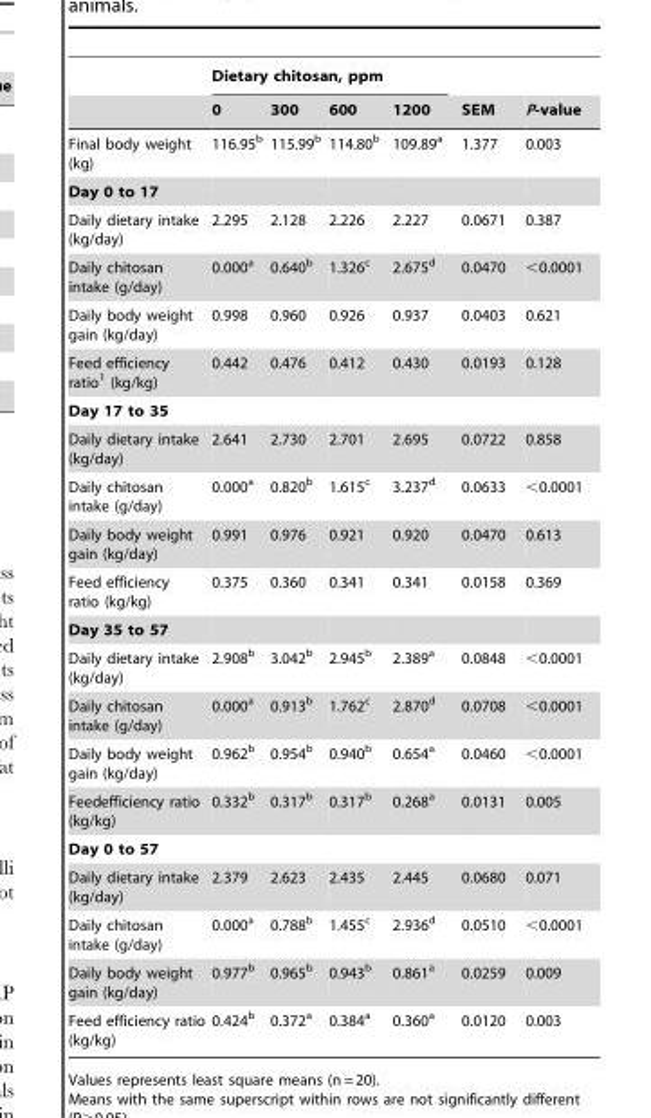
<table><thead><tr><td rowspan="2"></td><td colspan="4">Dietary chitosan, ppm</td><td rowspan="2">SEM</td><td rowspan="2">P-value</td></tr><tr><td>0</td><td>300</td><td>600</td><td>1200</td></tr></thead><tbody><tr><td>Final body weight (kg)</td><td>116.95<sup>b</sup></td><td>115.99<sup>b</sup></td><td>114.80<sup>b</sup></td><td>109.89<sup>a</sup></td><td>1.377</td><td>0.003</td></tr><tr><td colspan="7">Day 0 to 17</td></tr><tr><td>Daily dietary intake (kg/day)</td><td>2.295</td><td>2.128</td><td>2.226</td><td>2.227</td><td>0.0671</td><td>0.387</td></tr><tr><td>Daily chitosan intake (g/day)</td><td>0.000<sup>a</sup></td><td>0.640<sup>b</sup></td><td>1.326<sup>c</sup></td><td>2.675<sup>d</sup></td><td>0.0470</td><td>&lt;0.0001</td></tr><tr><td>Daily body weight gain (kg/day)</td><td>0.998</td><td>0.960</td><td>0.926</td><td>0.937</td><td>0.0403</td><td>0.621</td></tr><tr><td>Feed efficiency ratio<sup>1</sup> (kg/kg)</td><td>0.442</td><td>0.476</td><td>0.412</td><td>0.430</td><td>0.0193</td><td>0.128</td></tr><tr><td colspan="7">Day 17 to 35</td></tr><tr><td>Daily dietary intake (kg/day)</td><td>2.641</td><td>2.730</td><td>2.701</td><td>2.695</td><td>0.0722</td><td>0.858</td></tr><tr><td>Daily chitosan intake (g/day)</td><td>0.000<sup>a</sup></td><td>0.820<sup>b</sup></td><td>1.615<sup>c</sup></td><td>3.237<sup>d</sup></td><td>0.0633</td><td>&lt;0.0001</td></tr><tr><td>Daily body weight gain (kg/day)</td><td>0.991</td><td>0.976</td><td>0.921</td><td>0.920</td><td>0.0470</td><td>0.613</td></tr><tr><td>Feed efficiency ratio (kg/kg)</td><td>0.375</td><td>0.360</td><td>0.341</td><td>0.341</td><td>0.0158</td><td>0.369</td></tr><tr><td colspan="7">Day 35 to 57</td></tr><tr><td>Daily dietary intake (kg/day)</td><td>2.908<sup>b</sup></td><td>3.042<sup>b</sup></td><td>2.945<sup>b</sup></td><td>2.389<sup>a</sup></td><td>0.0848</td><td>&lt;0.0001</td></tr><tr><td>Daily chitosan intake (g/day)</td><td>0.000<sup>a</sup></td><td>0.913<sup>b</sup></td><td>1.762<sup>c</sup></td><td>2.870<sup>d</sup></td><td>0.0708</td><td>&lt;0.0001</td></tr><tr><td>Daily body weight gain (kg/day)</td><td>0.962<sup>b</sup></td><td>0.954<sup>b</sup></td><td>0.940<sup>b</sup></td><td>0.654<sup>a</sup></td><td>0.0460</td><td>&lt;0.0001</td></tr><tr><td>Feedefficiency ratio (kg/kg)</td><td>0.332<sup>b</sup></td><td>0.317<sup>b</sup></td><td>0.317<sup>b</sup></td><td>0.268<sup>a</sup></td><td>0.0131</td><td>0.005</td></tr><tr><td colspan="7">Day 0 to 57</td></tr><tr><td>Daily dietary intake (kg/day)</td><td>2.379</td><td>2.623</td><td>2.435</td><td>2.445</td><td>0.0680</td><td>0.071</td></tr><tr><td>Daily chitosan intake (g/day)</td><td>0.000<sup>a</sup></td><td>0.788<sup>b</sup></td><td>1.455<sup>c</sup></td><td>2.936<sup>d</sup></td><td>0.0510</td><td>&lt;0.0001</td></tr><tr><td>Daily body weight gain (kg/day)</td><td>0.977<sup>b</sup></td><td>0.965<sup>b</sup></td><td>0.943<sup>b</sup></td><td>0.861<sup>a</sup></td><td>0.0259</td><td>0.009</td></tr><tr><td>Feed efficiency ratio (kg/kg)</td><td>0.424<sup>b</sup></td><td>0.372<sup>a</sup></td><td>0.384<sup>a</sup></td><td>0.360<sup>a</sup></td><td>0.0120</td><td>0.003</td></tr></tbody></table>